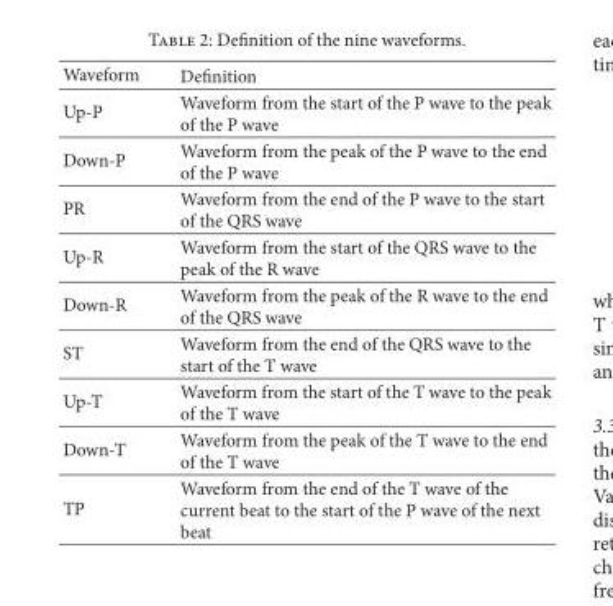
<table><thead><tr><td>Waveform</td><td>Definition</td></tr></thead><tbody><tr><td>Up-P</td><td>Waveform from the start of the P wave to the peak of the P wave</td></tr><tr><td>Down-P</td><td>Waveform from the peak of the P wave to the end of the P wave</td></tr><tr><td>PR</td><td>Waveform from the end of the P wave to the start of the QRS wave</td></tr><tr><td>Up-R</td><td>Waveform from the start of the QRS wave to the peak of the R wave</td></tr><tr><td>Down-R</td><td>Waveform from the peak of the R wave to the end of the QRS wave</td></tr><tr><td>ST</td><td>Waveform from the end of the QRS wave to the start of the T wave</td></tr><tr><td>Up-T</td><td>Waveform from the start of the T wave to the peak of the T wave</td></tr><tr><td>Down-T</td><td>Waveform from the peak of the T wave to the end of the T wave</td></tr><tr><td>TP</td><td>Waveform from the end of the T wave of the current beat to the start of the P wave of the next beat</td></tr></tbody></table>